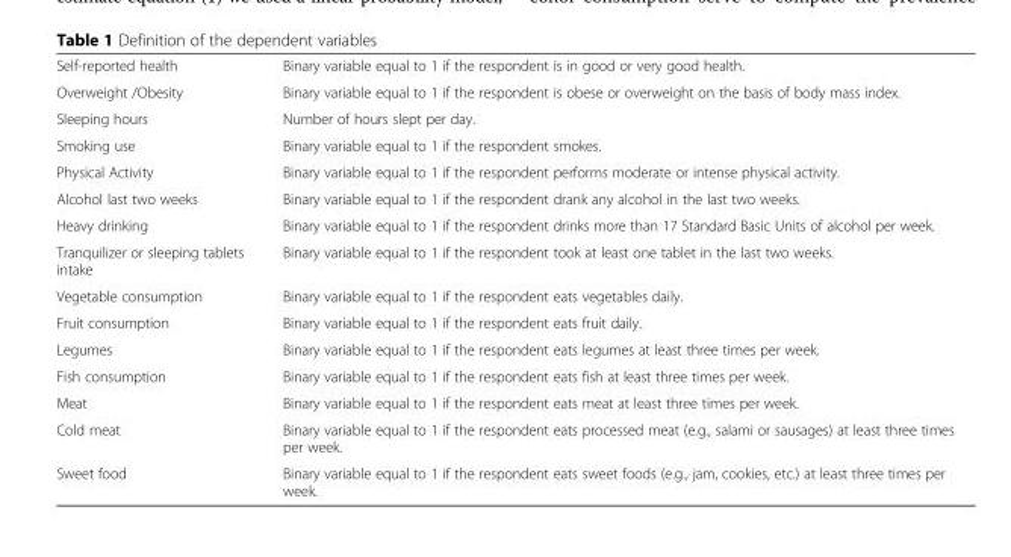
<table><tbody><tr><td>Self-reported health</td><td>Binary variable equal to 1 if the respondent is in good or very good health.</td></tr><tr><td>Overweight /Obesity</td><td>Binary variable equal to 1 if the respondent is obese or overweight on the basis of body mass index.</td></tr><tr><td>Sleeping hours</td><td>Number of hours slept per day.</td></tr><tr><td>Smoking use</td><td>Binary variable equal to 1 if the respondent smokes.</td></tr><tr><td>Physical Activity</td><td>Binary variable equal to 1 if the respondent performs moderate or intense physical activity.</td></tr><tr><td>Alcohol last two weeks</td><td>Binary variable equal to 1 if the respondent drank any alcohol in the last two weeks.</td></tr><tr><td>Heavy drinking</td><td>Binary variable equal to 1 if the respondent drinks more than 17 Standard Basic Units of alcohol per week.</td></tr><tr><td>Tranquilizer or sleeping tablets intake</td><td>Binary variable equal to 1 if the respondent took at least one tablet in the last two weeks.</td></tr><tr><td>Vegetable consumption</td><td>Binary variable equal to 1 if the respondent eats vegetables daily.</td></tr><tr><td>Fruit consumption</td><td>Binary variable equal to 1 if the respondent eats fruit daily.</td></tr><tr><td>Legumes</td><td>Binary variable equal to 1 if the respondent eats legumes at least three times per week.</td></tr><tr><td>Fish consumption</td><td>Binary variable equal to 1 if the respondent eats fish at least three times per week.</td></tr><tr><td>Meat</td><td>Binary variable equal to 1 if the respondent eats meat at least three times per week.</td></tr><tr><td>Cold meat</td><td>Binary variable equal to 1 if the respondent eats processed meat (e.g., salami or sausages) at least three times per week.</td></tr><tr><td>Sweet food</td><td>Binary variable equal to 1 if the respondent eats sweet foods (e.g., jam, cookies, etc.) at least three times per week.</td></tr></tbody></table>